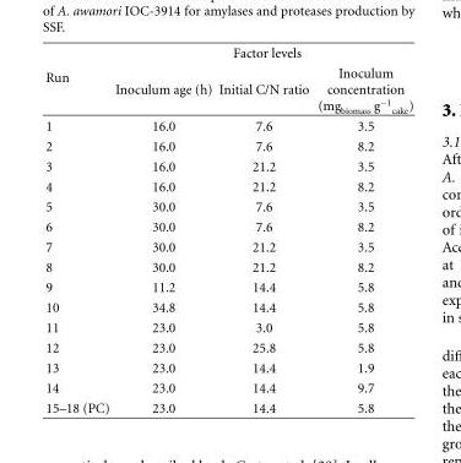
<table><thead><tr><td rowspan="2">Run</td><td colspan="3">Factor levels</td></tr><tr><td>Inoculum age (h)</td><td>Initial C/N ratio</td><td>Inoculum concentration (mg<sub>biomass</sub> g<sup>−1</sup> <sub>cake</sub>)</td></tr></thead><tbody><tr><td>1</td><td>16.0</td><td>7.6</td><td>3.5</td></tr><tr><td>2</td><td>16.0</td><td>7.6</td><td>8.2</td></tr><tr><td>3</td><td>16.0</td><td>21.2</td><td>3.5</td></tr><tr><td>4</td><td>16.0</td><td>21.2</td><td>8.2</td></tr><tr><td>5</td><td>30.0</td><td>7.6</td><td>3.5</td></tr><tr><td>6</td><td>30.0</td><td>7.6</td><td>8.2</td></tr><tr><td>7</td><td>30.0</td><td>21.2</td><td>3.5</td></tr><tr><td>8</td><td>30.0</td><td>21.2</td><td>8.2</td></tr><tr><td>9</td><td>11.2</td><td>14.4</td><td>5.8</td></tr><tr><td>10</td><td>34.8</td><td>14.4</td><td>5.8</td></tr><tr><td>11</td><td>23.0</td><td>3.0</td><td>5.8</td></tr><tr><td>12</td><td>23.0</td><td>25.8</td><td>5.8</td></tr><tr><td>13</td><td>23.0</td><td>14.4</td><td>1.9</td></tr><tr><td>14</td><td>23.0</td><td>14.4</td><td>9.7</td></tr><tr><td>15–18 (PC)</td><td>23.0</td><td>14.4</td><td>5.8</td></tr></tbody></table>